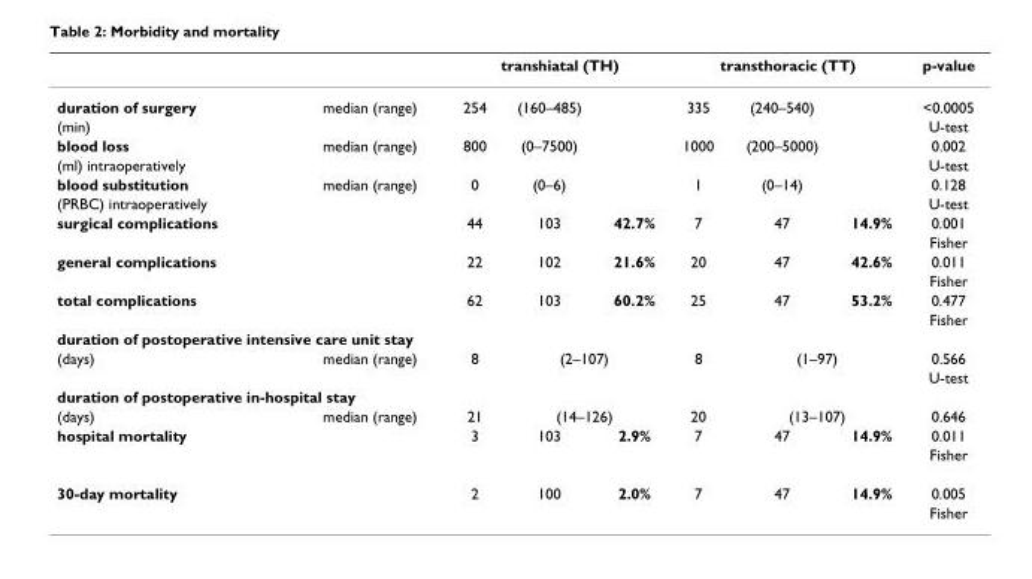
<table><thead><tr><td rowspan="2">duration of surgery</td><td rowspan="2">median (range)</td><td colspan="3">transhiatal (TH)</td><td colspan="3">transthoracic (TT)</td><td rowspan="2">p-value &lt;0.0005</td></tr><tr><td>254</td><td>(160–485)</td><td></td><td>335</td><td>(240–540)</td><td></td></tr></thead><tbody><tr><td>(min)</td><td></td><td></td><td></td><td></td><td></td><td></td><td></td><td>U-test</td></tr><tr><td>blood loss</td><td>median (range)</td><td>800</td><td>(0–7500)</td><td></td><td>1000</td><td>(200–5000)</td><td></td><td>0.002</td></tr><tr><td>(ml) intraoperatively</td><td></td><td></td><td></td><td></td><td></td><td></td><td></td><td>U-test</td></tr><tr><td>blood substitution</td><td>median (range)</td><td>0</td><td>(0–6)</td><td></td><td>1</td><td>(0–14)</td><td></td><td>0.128</td></tr><tr><td>(PRBC) intraoperatively</td><td></td><td></td><td></td><td></td><td></td><td></td><td></td><td>U-test</td></tr><tr><td colspan="2">surgical complications</td><td>44</td><td>103</td><td>42.7%</td><td>7</td><td>47</td><td>14.9%</td><td>0.001</td></tr><tr><td></td><td></td><td></td><td></td><td></td><td></td><td></td><td></td><td>Fisher</td></tr><tr><td colspan="2">general complications</td><td>22</td><td>102</td><td>21.6%</td><td>20</td><td>47</td><td>42.6%</td><td>0.011</td></tr><tr><td></td><td></td><td></td><td></td><td></td><td></td><td></td><td></td><td>Fisher</td></tr><tr><td colspan="2">total complications</td><td>62</td><td>103</td><td>60.2%</td><td>25</td><td>47</td><td>53.2%</td><td>0.477</td></tr><tr><td></td><td></td><td></td><td></td><td></td><td></td><td></td><td></td><td>Fisher</td></tr><tr><td colspan="9">duration of postoperative intensive care unit stay</td></tr><tr><td rowspan="2">(days)</td><td>median (range)</td><td>8</td><td colspan="2">(2–107)</td><td>8</td><td colspan="2">(1–97)</td><td>0.566</td></tr><tr><td></td><td></td><td></td><td></td><td></td><td></td><td></td><td>U-test</td></tr><tr><td colspan="9">duration of postoperative in-hospital stay</td></tr><tr><td>(days)</td><td>median (range)</td><td>21</td><td colspan="2">(14–126)</td><td>20</td><td colspan="2">(13–107)</td><td>0.646</td></tr><tr><td rowspan="2">hospital mortality</td><td></td><td>3</td><td>103</td><td>2.9%</td><td>7</td><td>47</td><td>14.9%</td><td>0.011</td></tr><tr><td></td><td></td><td></td><td></td><td></td><td></td><td></td><td>Fisher</td></tr><tr><td colspan="2">30-day mortality</td><td>2</td><td>100</td><td>2.0%</td><td>7</td><td>47</td><td>14.9%</td><td>0.005</td></tr><tr><td></td><td></td><td></td><td></td><td></td><td></td><td></td><td></td><td>Fisher</td></tr></tbody></table>